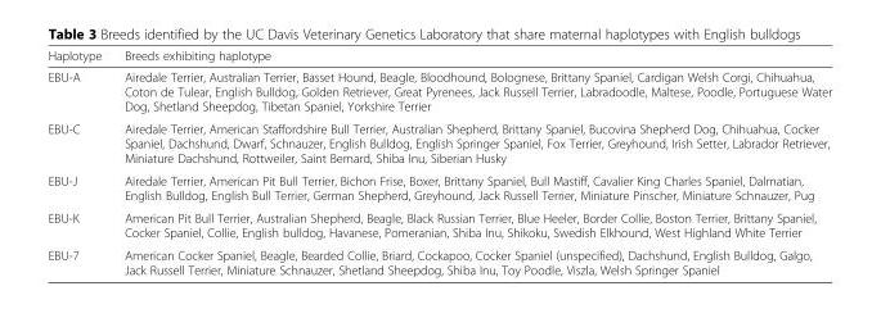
<table><thead><tr><td>Haplotype</td><td>Breeds exhibiting haplotype</td></tr></thead><tbody><tr><td>EBU-A</td><td>Airedale Terrier, Australian Terrier, Basset Hound, Beagle, Bloodhound, Bolognese, Brittany Spaniel, Cardigan Welsh Corgi, Chihuahua, Coton de Tulear, English Bulldog, Golden Retriever, Great Pyrenees, Jack Russell Terrier, Labradoodle, Maltese, Poodle, Portuguese Water Dog, Shetland Sheepdog, Tibetan Spaniel, Yorkshire Terrier</td></tr><tr><td>EBU-C</td><td>Airedale Terrier, American Staffordshire Bull Terrier, Australian Shepherd, Brittany Spaniel, Bucovina Shepherd Dog, Chihuahua, Cocker Spaniel, Dachshund, Dwarf, Schnauzer, English Bulldog, English Springer Spaniel, Fox Terrier, Greyhound, Irish Setter, Labrador Retriever, Miniature Dachshund, Rottweiler, Saint Bernard, Shiba Inu, Siberian Husky</td></tr><tr><td>EBU-J</td><td>Airedale Terrier, American Pit Bull Terrier, Bichon Frise, Boxer, Brittany Spaniel, Bull Mastiff, Cavalier King Charles Spaniel, Dalmatian, English Bulldog, English Bull Terrier, German Shepherd, Greyhound, Jack Russell Terrier, Miniature Pinscher, Miniature Schnauzer, Pug</td></tr><tr><td>EBU-K</td><td>American Pit Bull Terrier, Australian Shepherd, Beagle, Black Russian Terrier, Blue Heeler, Border Collie, Boston Terrier, Brittany Spaniel, Cocker Spaniel, Collie, English bulldog, Havanese, Pomeranian, Shiba Inu, Shikoku, Swedish Elkhound, West Highland White Terrier</td></tr><tr><td>EBU-7</td><td>American Cocker Spaniel, Beagle, Bearded Collie, Briard, Cockapoo, Cocker Spaniel (unspecified), Dachshund, English Bulldog, Galgo, Jack Russell Terrier, Miniature Schnauzer, Shetland Sheepdog, Shiba Inu, Toy Poodle, Viszla, Welsh Springer Spaniel</td></tr></tbody></table>